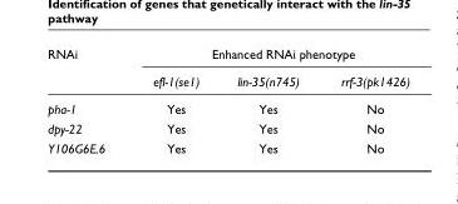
<table><thead><tr><td rowspan="2">RNAi</td><td colspan="3">Enhanced RNAi phenotype</td></tr><tr><td>efl-1(se1)</td><td>lin-35(n745)</td><td>rrf-3(pk1426)</td></tr></thead><tbody><tr><td>pha-1</td><td>Yes</td><td>Yes</td><td>No</td></tr><tr><td>dpy-22</td><td>Yes</td><td>Yes</td><td>No</td></tr><tr><td>Y106G6E.6</td><td>Yes</td><td>Yes</td><td>No</td></tr></tbody></table>